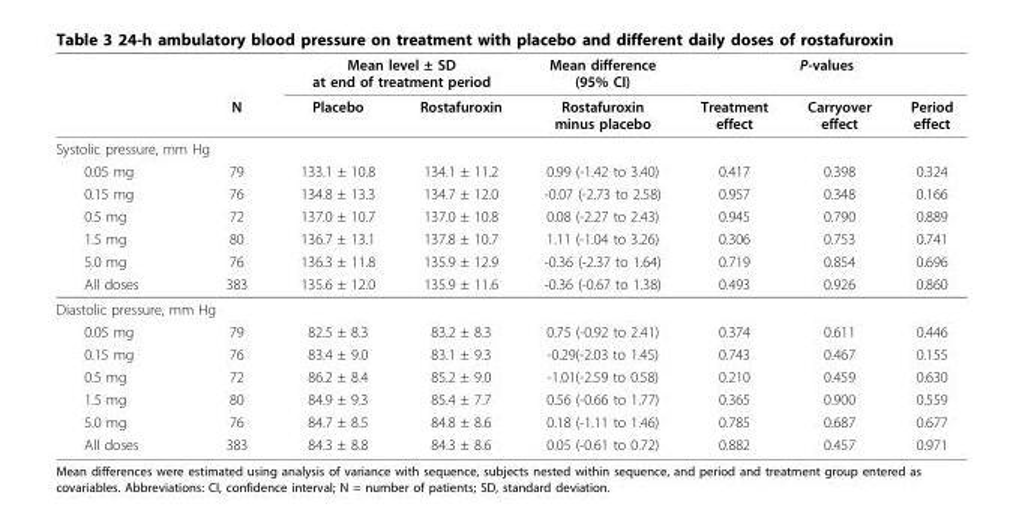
<table><thead><tr><td rowspan="2"></td><td rowspan="2">N</td><td colspan="2">Mean level ± SD at end of treatment period</td><td rowspan="2">Mean difference (95% CI) Rostafuroxin minus placebo</td><td colspan="3">P-values</td></tr><tr><td>Placebo</td><td>Rostafuroxin</td><td>Treatment effect</td><td>Carryover effect</td><td>Period effect</td></tr></thead><tbody><tr><td colspan="8">Systolic pressure, mm Hg</td></tr><tr><td>0.05 mg</td><td>79</td><td>133.1 ± 10.8</td><td>134.1 ± 11.2</td><td>0.99 (-1.42 to 3.40)</td><td>0.417</td><td>0.398</td><td>0.324</td></tr><tr><td>0.15 mg</td><td>76</td><td>134.8 ± 13.3</td><td>134.7 ± 12.0</td><td>-0.07 (-2.73 to 2.58)</td><td>0.957</td><td>0.348</td><td>0.166</td></tr><tr><td>0.5 mg</td><td>72</td><td>137.0 ± 10.7</td><td>137.0 ± 10.8</td><td>0.08 (-2.27 to 2.43)</td><td>0.945</td><td>0.790</td><td>0.889</td></tr><tr><td>1.5 mg</td><td>80</td><td>136.7 ± 13.1</td><td>137.8 ± 10.7</td><td>1.11 (-1.04 to 3.26)</td><td>0.306</td><td>0.753</td><td>0.741</td></tr><tr><td>5.0 mg</td><td>76</td><td>136.3 ± 11.8</td><td>135.9 ± 12.9</td><td>-0.36 (-2.37 to 1.64)</td><td>0.719</td><td>0.854</td><td>0.696</td></tr><tr><td>All doses</td><td>383</td><td>135.6 ± 12.0</td><td>135.9 ± 11.6</td><td>-0.36 (-0.67 to 1.38)</td><td>0.493</td><td>0.926</td><td>0.860</td></tr><tr><td colspan="8">Diastolic pressure, mm Hg</td></tr><tr><td>0.05 mg</td><td>79</td><td>82.5 ± 8.3</td><td>83.2 ± 8.3</td><td>0.75 (-0.92 to 2.41)</td><td>0.374</td><td>0.611</td><td>0.446</td></tr><tr><td>0.15 mg</td><td>76</td><td>83.4 ± 9.0</td><td>83.1 ± 9.3</td><td>-0.29(-2.03 to 1.45)</td><td>0.743</td><td>0.467</td><td>0.155</td></tr><tr><td>0.5 mg</td><td>72</td><td>86.2 ± 8.4</td><td>85.2 ± 9.0</td><td>-1.01(-2.59 to 0.58)</td><td>0.210</td><td>0.459</td><td>0.630</td></tr><tr><td>1.5 mg</td><td>80</td><td>84.9 ± 9.3</td><td>85.4 ± 7.7</td><td>0.56 (-0.66 to 1.77)</td><td>0.365</td><td>0.900</td><td>0.559</td></tr><tr><td>5.0 mg</td><td>76</td><td>84.7 ± 8.5</td><td>84.8 ± 8.6</td><td>0.18 (-1.11 to 1.46)</td><td>0.785</td><td>0.687</td><td>0.677</td></tr><tr><td>All doses</td><td>383</td><td>84.3 ± 8.8</td><td>84.3 ± 8.6</td><td>0.05 (-0.61 to 0.72)</td><td>0.882</td><td>0.457</td><td>0.971</td></tr></tbody></table>